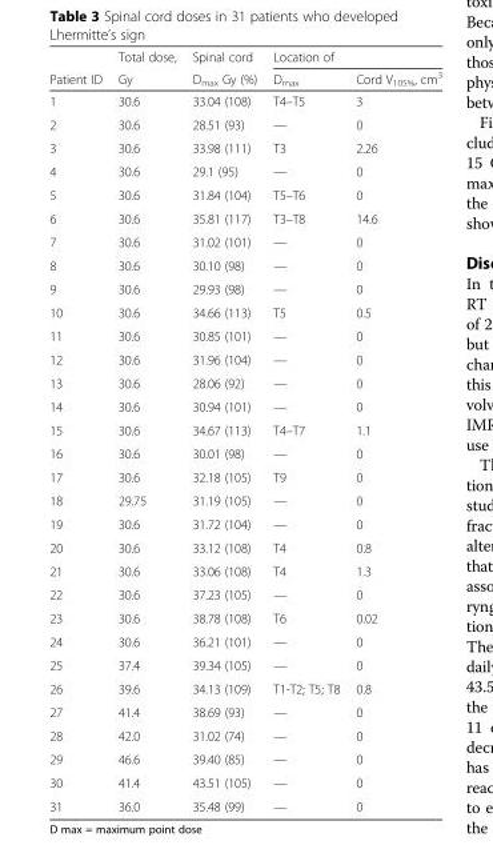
<table><thead><tr><td rowspan="2">Patient ID</td><td rowspan="2">Total dose, Gy</td><td rowspan="2">Spinal cord D<sub>max</sub> Gy (%)</td><td colspan="2">Location of</td></tr><tr><td>D<sub>max</sub></td><td>Cord V<sub>105%</sub>, cm<sup>3</sup></td></tr></thead><tbody><tr><td>1</td><td>30.6</td><td>33.04 (108)</td><td>T4–T5</td><td>3</td></tr><tr><td>2</td><td>30.6</td><td>28.51 (93)</td><td>—</td><td>0</td></tr><tr><td>3</td><td>30.6</td><td>33.98 (111)</td><td>T3</td><td>2.26</td></tr><tr><td>4</td><td>30.6</td><td>29.1 (95)</td><td>—</td><td>0</td></tr><tr><td>5</td><td>30.6</td><td>31.84 (104)</td><td>T5–T6</td><td>0</td></tr><tr><td>6</td><td>30.6</td><td>35.81 (117)</td><td>T3–T8</td><td>14.6</td></tr><tr><td>7</td><td>30.6</td><td>31.02 (101)</td><td>—</td><td>0</td></tr><tr><td>8</td><td>30.6</td><td>30.10 (98)</td><td>—</td><td>0</td></tr><tr><td>9</td><td>30.6</td><td>29.93 (98)</td><td>—</td><td>0</td></tr><tr><td>10</td><td>30.6</td><td>34.66 (113)</td><td>T5</td><td>0.5</td></tr><tr><td>11</td><td>30.6</td><td>30.85 (101)</td><td>—</td><td>0</td></tr><tr><td>12</td><td>30.6</td><td>31.96 (104)</td><td>—</td><td>0</td></tr><tr><td>13</td><td>30.6</td><td>28.06 (92)</td><td>—</td><td>0</td></tr><tr><td>14</td><td>30.6</td><td>30.94 (101)</td><td>—</td><td>0</td></tr><tr><td>15</td><td>30.6</td><td>34.67 (113)</td><td>T4–T7</td><td>1.1</td></tr><tr><td>16</td><td>30.6</td><td>30.01 (98)</td><td>—</td><td>0</td></tr><tr><td>17</td><td>30.6</td><td>32.18 (105)</td><td>T9</td><td>0</td></tr><tr><td>18</td><td>29.75</td><td>31.19 (105)</td><td>—</td><td>0</td></tr><tr><td>19</td><td>30.6</td><td>31.72 (104)</td><td>—</td><td>0</td></tr><tr><td>20</td><td>30.6</td><td>33.12 (108)</td><td>T4</td><td>0.8</td></tr><tr><td>21</td><td>30.6</td><td>33.06 (108)</td><td>T4</td><td>1.3</td></tr><tr><td>22</td><td>30.6</td><td>37.23 (105)</td><td>—</td><td>0</td></tr><tr><td>23</td><td>30.6</td><td>38.78 (108)</td><td>T6</td><td>0.02</td></tr><tr><td>24</td><td>30.6</td><td>36.21 (101)</td><td>—</td><td>0</td></tr><tr><td>25</td><td>37.4</td><td>39.34 (105)</td><td>—</td><td>0</td></tr><tr><td>26</td><td>39.6</td><td>34.13 (109)</td><td>T1-T2; T5; T8</td><td>0.8</td></tr><tr><td>27</td><td>41.4</td><td>38.69 (93)</td><td>—</td><td>0</td></tr><tr><td>28</td><td>42.0</td><td>31.02 (74)</td><td>—</td><td>0</td></tr><tr><td>29</td><td>46.6</td><td>39.40 (85)</td><td>—</td><td>0</td></tr><tr><td>30</td><td>41.4</td><td>43.51 (105)</td><td>—</td><td>0</td></tr><tr><td>31</td><td>36.0</td><td>35.48 (99)</td><td>—</td><td>0</td></tr></tbody></table>